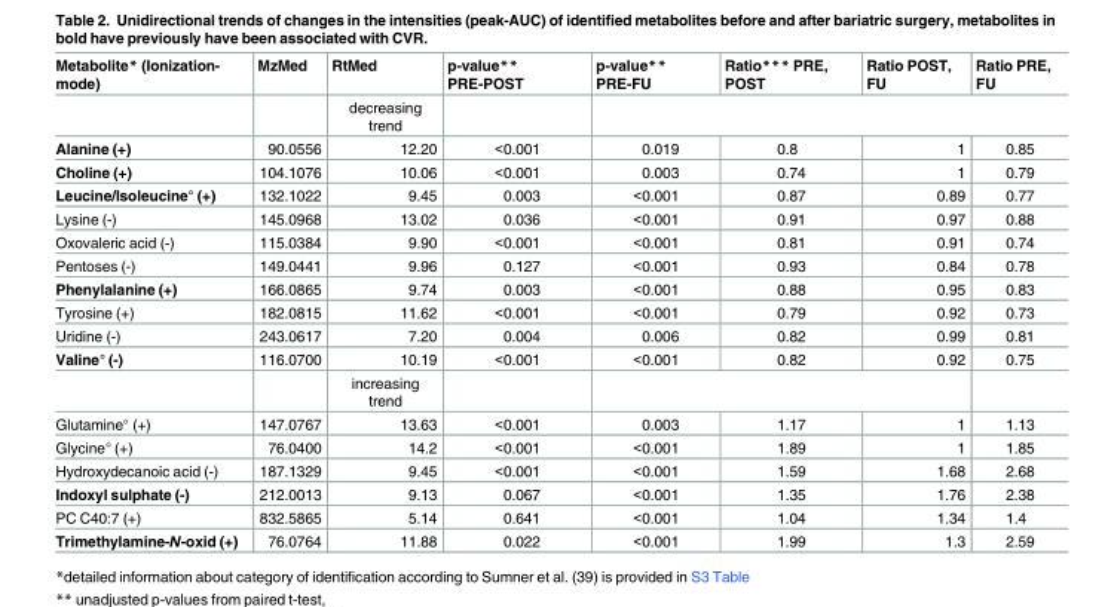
<table><thead><tr><td>Metabolite* (Ionization- mode)</td><td>MzMed</td><td>RtMed</td><td>p-value** PRE-POST</td><td>p-value** PRE-FU</td><td>Ratio*** PRE, POST</td><td>Ratio POST, FU</td><td>Ratio PRE, FU</td></tr></thead><tbody><tr><td></td><td></td><td>decreasing trend</td><td></td><td colspan="4"></td></tr><tr><td>Alanine (+)</td><td>90.0556</td><td>12.20</td><td>&lt;0.001</td><td>0.019</td><td>0.8</td><td>1</td><td>0.85</td></tr><tr><td>Choline (+)</td><td>104.1076</td><td>10.06</td><td>&lt;0.001</td><td>0.003</td><td>0.74</td><td>1</td><td>0.79</td></tr><tr><td>Leucine/Isoleucine° (+)</td><td>132.1022</td><td>9.45</td><td>0.003</td><td>&lt;0.001</td><td>0.87</td><td>0.89</td><td>0.77</td></tr><tr><td>Lysine (-)</td><td>145.0968</td><td>13.02</td><td>0.036</td><td>&lt;0.001</td><td>0.91</td><td>0.97</td><td>0.88</td></tr><tr><td>Oxovaleric acid (-)</td><td>115.0384</td><td>9.90</td><td>&lt;0.001</td><td>&lt;0.001</td><td>0.81</td><td>0.91</td><td>0.74</td></tr><tr><td>Pentoses (-)</td><td>149.0441</td><td>9.96</td><td>0.127</td><td>&lt;0.001</td><td>0.93</td><td>0.84</td><td>0.78</td></tr><tr><td>Phenylalanine (+)</td><td>166.0865</td><td>9.74</td><td>0.003</td><td>&lt;0.001</td><td>0.88</td><td>0.95</td><td>0.83</td></tr><tr><td>Tyrosine (+)</td><td>182.0815</td><td>11.62</td><td>&lt;0.001</td><td>&lt;0.001</td><td>0.79</td><td>0.92</td><td>0.73</td></tr><tr><td>Uridine (-)</td><td>243.0617</td><td>7.20</td><td>0.004</td><td>0.006</td><td>0.82</td><td>0.99</td><td>0.81</td></tr><tr><td rowspan="2">Valine° (-)</td><td>116.0700</td><td>10.19</td><td>&lt;0.001</td><td>&lt;0.001</td><td>0.82</td><td>0.92</td><td>0.75</td></tr><tr><td></td><td>increasing trend</td><td></td><td colspan="3"></td><td></td></tr><tr><td>Glutamine° (+)</td><td>147.0767</td><td>13.63</td><td>&lt;0.001</td><td>0.003</td><td>1.17</td><td>1</td><td>1.13</td></tr><tr><td>Glycine° (+)</td><td>76.0400</td><td>14.2</td><td>&lt;0.001</td><td>&lt;0.001</td><td>1.89</td><td>1</td><td>1.85</td></tr><tr><td>Hydroxydecanoic acid (-)</td><td>187.1329</td><td>9.45</td><td>&lt;0.001</td><td>&lt;0.001</td><td>1.59</td><td>1.68</td><td>2.68</td></tr><tr><td>Indoxyl sulphate (-)</td><td>212.0013</td><td>9.13</td><td>0.067</td><td>&lt;0.001</td><td>1.35</td><td>1.76</td><td>2.38</td></tr><tr><td>PC C40:7 (+)</td><td>832.5865</td><td>5.14</td><td>0.641</td><td>&lt;0.001</td><td>1.04</td><td>1.34</td><td>1.4</td></tr><tr><td>Trimethylamine-N-oxid (+)</td><td>76.0764</td><td>11.88</td><td>0.022</td><td>&lt;0.001</td><td>1.99</td><td>1.3</td><td>2.59</td></tr></tbody></table>